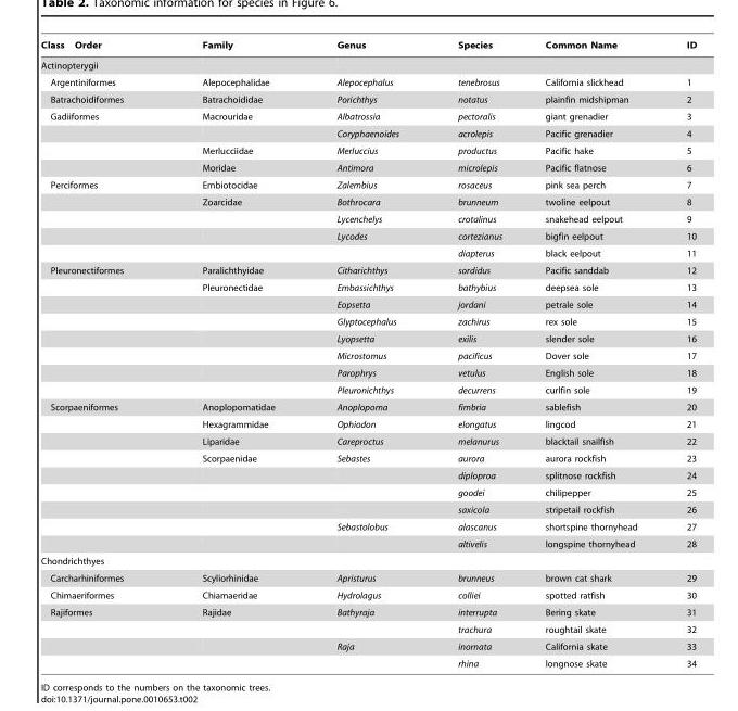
<table><thead><tr><td>Class</td><td>Order</td><td>Family</td><td>Genus</td><td>Species</td><td>Common Name</td><td>ID</td></tr></thead><tbody><tr><td colspan="7">Actinopterygii</td></tr><tr><td colspan="2">Argentiniformes</td><td>Alepocephalidae</td><td>Alepocephalus</td><td>tenebrosus</td><td>California slickhead</td><td>1</td></tr><tr><td colspan="2">Batrachoidiformes</td><td>Batrachoididae</td><td>Porichthys</td><td>notatus</td><td>plainfin midshipman</td><td>2</td></tr><tr><td rowspan="4" colspan="2">Gadiiformes</td><td>Macrouridae</td><td>Albatrossia</td><td>pectoralis</td><td>giant grenadier</td><td>3</td></tr><tr><td></td><td>Coryphaenoides</td><td>acrolepis</td><td>Pacific grenadier</td><td>4</td></tr><tr><td>Merlucciidae</td><td>Merluccius</td><td>productus</td><td>Pacific hake</td><td>5</td></tr><tr><td>Moridae</td><td>Antimora</td><td>microlepis</td><td>Pacific flatnose</td><td>6</td></tr><tr><td rowspan="5" colspan="2">Perciformes</td><td>Embiotocidae</td><td>Zalembius</td><td>rosaceus</td><td>pink sea perch</td><td>7</td></tr><tr><td>Zoarcidae</td><td>Bothrocara</td><td>brunneum</td><td>twoline eelpout</td><td>8</td></tr><tr><td></td><td>Lycenchelys</td><td>crotalinus</td><td>snakehead eelpout</td><td>9</td></tr><tr><td></td><td>Lycodes</td><td>cortezianus</td><td>bigfin eelpout</td><td>10</td></tr><tr><td></td><td></td><td>diapterus</td><td>black eelpout</td><td>11</td></tr><tr><td rowspan="8" colspan="2">Pleuronectiformes</td><td>Paralichthyidae</td><td>Citharichthys</td><td>sordidus</td><td>Pacific sanddab</td><td>12</td></tr><tr><td>Pleuronectidae</td><td>Embassichthys</td><td>bathybius</td><td>deepsea sole</td><td>13</td></tr><tr><td></td><td>Eopsetta</td><td>jordani</td><td>petrale sole</td><td>14</td></tr><tr><td></td><td>Glyptocephalus</td><td>zachirus</td><td>rex sole</td><td>15</td></tr><tr><td></td><td>Lyopsetta</td><td>exilis</td><td>slender sole</td><td>16</td></tr><tr><td></td><td>Microstomus</td><td>pacificus</td><td>Dover sole</td><td>17</td></tr><tr><td></td><td>Parophrys</td><td>vetulus</td><td>English sole</td><td>18</td></tr><tr><td></td><td>Pleuronichthys</td><td>decurrens</td><td>curlfin sole</td><td>19</td></tr><tr><td rowspan="9" colspan="2">Scorpaeniformes</td><td>Anoplopomatidae</td><td>Anoplopoma</td><td>fimbria</td><td>sablefish</td><td>20</td></tr><tr><td>Hexagrammidae</td><td>Ophiodon</td><td>elongatus</td><td>lingcod</td><td>21</td></tr><tr><td>Liparidae</td><td>Careproctus</td><td>melanurus</td><td>blacktail snailfish</td><td>22</td></tr><tr><td>Scorpaenidae</td><td>Sebastes</td><td>aurora</td><td>aurora rockfish</td><td>23</td></tr><tr><td></td><td></td><td>diploproa</td><td>splitnose rockfish</td><td>24</td></tr><tr><td></td><td></td><td>goodei</td><td>chilipepper</td><td>25</td></tr><tr><td></td><td></td><td>saxicola</td><td>stripetail rockfish</td><td>26</td></tr><tr><td></td><td>Sebastolobus</td><td>alascanus</td><td>shortspine thornyhead</td><td>27</td></tr><tr><td></td><td></td><td>altivelis</td><td>longspine thornyhead</td><td>28</td></tr><tr><td colspan="7">Chondrichthyes</td></tr><tr><td colspan="2">Carcharhiniformes</td><td>Scyliorhinidae</td><td>Apristurus</td><td>brunneus</td><td>brown cat shark</td><td>29</td></tr><tr><td colspan="2">Chimaeriformes</td><td>Chiamaeridae</td><td>Hydrolagus</td><td>colliei</td><td>spotted ratfish</td><td>30</td></tr><tr><td rowspan="4" colspan="2">Rajiformes</td><td>Rajidae</td><td>Bathyraja</td><td>interrupta</td><td>Bering skate</td><td>31</td></tr><tr><td></td><td></td><td>trachura</td><td>roughtail skate</td><td>32</td></tr><tr><td></td><td>Raja</td><td>inornata</td><td>California skate</td><td>33</td></tr><tr><td></td><td></td><td>rhina</td><td>longnose skate</td><td>34</td></tr></tbody></table>